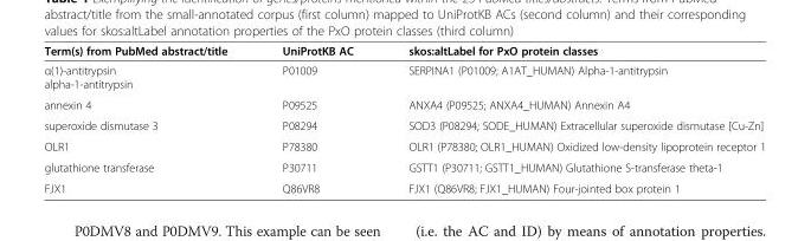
<table><thead><tr><td>Term(s) from PubMed abstract/title</td><td>UniProtKB AC</td><td>skos:altLabel for PxO protein classes</td></tr></thead><tbody><tr><td>α(1)-antitrypsin alpha-1-antitrypsin</td><td>P01009</td><td>SERPINA1 (P01009; A1AT_HUMAN) Alpha-1-antitrypsin</td></tr><tr><td>annexin 4</td><td>P09525</td><td>ANXA4 (P09525; ANXA4_HUMAN) Annexin A4</td></tr><tr><td>superoxide dismutase 3</td><td>P08294</td><td>SOD3 (P08294; SODE_HUMAN) Extracellular superoxide dismutase [Cu-Zn]</td></tr><tr><td>OLR1</td><td>P78380</td><td>OLR1 (P78380; OLR1_HUMAN) Oxidized low-density lipoprotein receptor 1</td></tr><tr><td>glutathione transferase</td><td>P30711</td><td>GSTT1 (P30711; GSTT1_HUMAN) Glutathione S-transferase theta-1</td></tr><tr><td>FJX1</td><td>Q86VR8</td><td>FJX1 (Q86VR8; FJX1_HUMAN) Four-jointed box protein 1</td></tr></tbody></table>